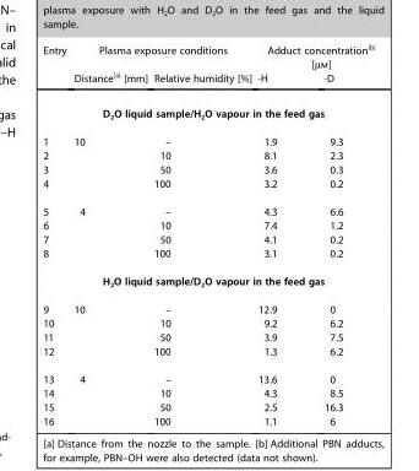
<table><thead><tr><td rowspan="2">Entry</td><td colspan="2">Plasma exposure conditions</td><td colspan="2">Adduct concentration[b] [μm]</td></tr><tr><td>Distance[a] [mm]</td><td>Relative humidity [%]</td><td>·H</td><td>·D</td></tr></thead><tbody><tr><td colspan="5">D<sub>2</sub>O liquid sample/H<sub>2</sub>O vapour in the feed gas</td></tr><tr><td>1</td><td rowspan="4">10</td><td>–</td><td>1.9</td><td>9.3</td></tr><tr><td>2</td><td>10</td><td>8.1</td><td>2.3</td></tr><tr><td>3</td><td>50</td><td>3.6</td><td>0.3</td></tr><tr><td>4</td><td>100</td><td>3.2</td><td>0.2</td></tr><tr><td>5</td><td rowspan="4">4</td><td>–</td><td>4.3</td><td>6.6</td></tr><tr><td>6</td><td>10</td><td>7.4</td><td>1.2</td></tr><tr><td>7</td><td>50</td><td>4.1</td><td>0.2</td></tr><tr><td>8</td><td>100</td><td>3.1</td><td>0.2</td></tr><tr><td colspan="5">H<sub>2</sub>O liquid sample/D<sub>2</sub>O vapour in the feed gas</td></tr><tr><td>9</td><td rowspan="4">10</td><td>–</td><td>12.9</td><td>0</td></tr><tr><td>10</td><td>10</td><td>9.2</td><td>6.2</td></tr><tr><td>11</td><td>50</td><td>3.9</td><td>7.5</td></tr><tr><td>12</td><td>100</td><td>1.3</td><td>6.2</td></tr><tr><td>13</td><td rowspan="4">4</td><td>–</td><td>13.6</td><td>0</td></tr><tr><td>14</td><td>10</td><td>4.3</td><td>8.5</td></tr><tr><td>15</td><td>50</td><td>2.5</td><td>16.3</td></tr><tr><td>16</td><td>100</td><td>1.1</td><td>6</td></tr></tbody></table>